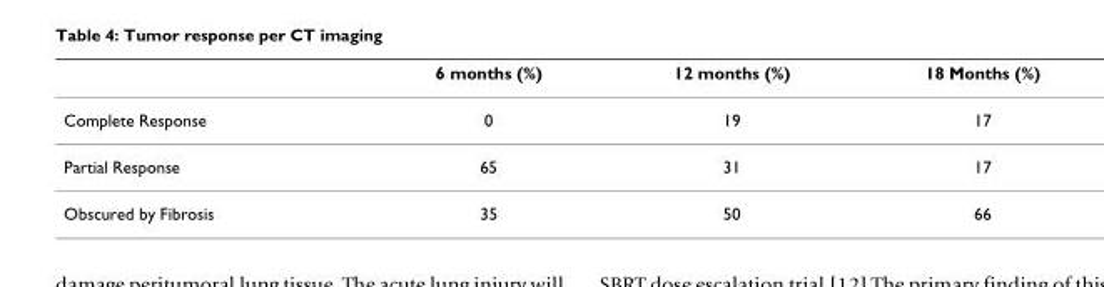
<table><thead><tr><td></td><td>6 months (%)</td><td>12 months (%)</td><td>18 Months (%)</td></tr></thead><tbody><tr><td>Complete Response</td><td>0</td><td>19</td><td>17</td></tr><tr><td>Partial Response</td><td>65</td><td>31</td><td>17</td></tr><tr><td>Obscured by Fibrosis</td><td>35</td><td>50</td><td>66</td></tr></tbody></table>